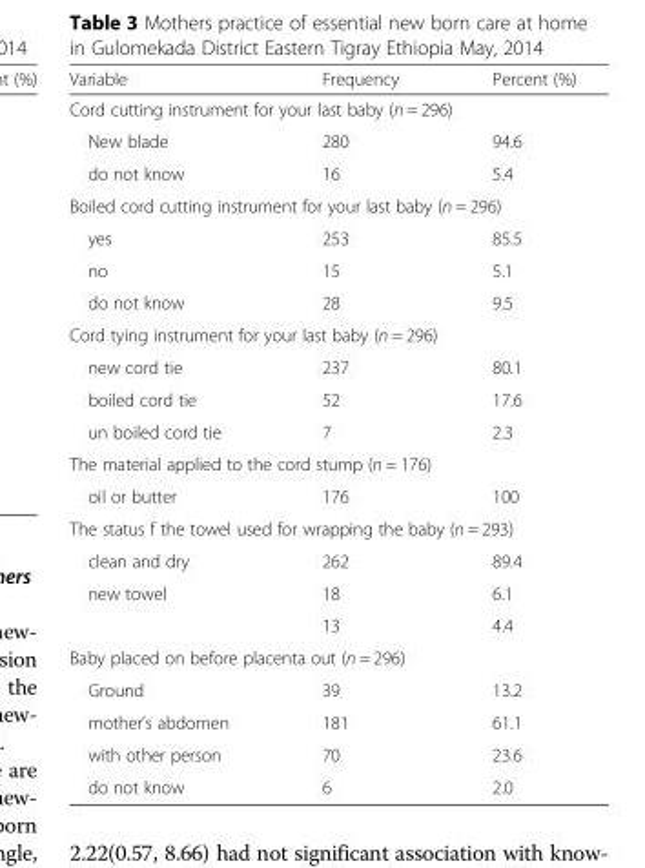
<table><thead><tr><td>Variable</td><td>Frequency</td><td>Percent (%)</td></tr></thead><tbody><tr><td colspan="3">Cord cutting instrument for your last baby (n = 296)</td></tr><tr><td>New blade</td><td>280</td><td>94.6</td></tr><tr><td>do not know</td><td>16</td><td>5.4</td></tr><tr><td colspan="3">Boiled cord cutting instrument for your last baby (n = 296)</td></tr><tr><td>yes</td><td>253</td><td>85.5</td></tr><tr><td>no</td><td>15</td><td>5.1</td></tr><tr><td>do not know</td><td>28</td><td>9.5</td></tr><tr><td colspan="3">Cord tying instrument for your last baby (n = 296)</td></tr><tr><td>new cord tie</td><td>237</td><td>80.1</td></tr><tr><td>boiled cord tie</td><td>52</td><td>17.6</td></tr><tr><td>un boiled cord tie</td><td>7</td><td>2.3</td></tr><tr><td colspan="3">The material applied to the cord stump (n = 176)</td></tr><tr><td>oil or butter</td><td>176</td><td>100</td></tr><tr><td colspan="3">The status f the towel used for wrapping the baby (n = 293)</td></tr><tr><td>clean and dry</td><td>262</td><td>89.4</td></tr><tr><td rowspan="2">new towel</td><td>18</td><td>6.1</td></tr><tr><td>13</td><td>4.4</td></tr><tr><td colspan="3">Baby placed on before placenta out (n = 296)</td></tr><tr><td>Ground</td><td>39</td><td>13.2</td></tr><tr><td>mother’s abdomen</td><td>181</td><td>61.1</td></tr><tr><td>with other person</td><td>70</td><td>23.6</td></tr><tr><td>do not know</td><td>6</td><td>2.0</td></tr></tbody></table>